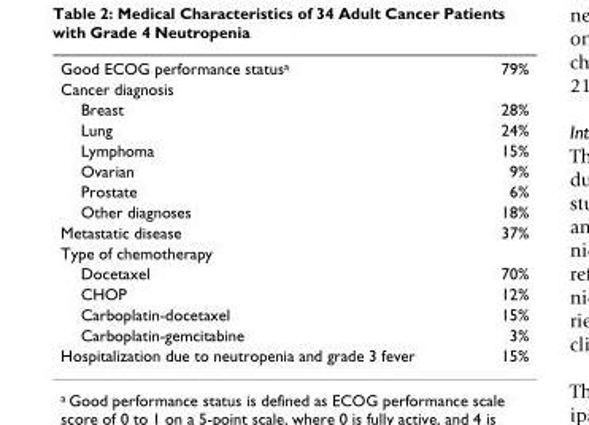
<table><tbody><tr><td>Good ECOG performance status<sup>a</sup></td><td>79%</td></tr><tr><td colspan="2">Cancer diagnosis</td></tr><tr><td>Breast</td><td>28%</td></tr><tr><td>Lung</td><td>24%</td></tr><tr><td>Lymphoma</td><td>15%</td></tr><tr><td>Ovarian</td><td>9%</td></tr><tr><td>Prostate</td><td>6%</td></tr><tr><td>Other diagnoses</td><td>18%</td></tr><tr><td>Metastatic disease</td><td>37%</td></tr><tr><td colspan="2">Type of chemotherapy</td></tr><tr><td>Docetaxel</td><td>70%</td></tr><tr><td>CHOP</td><td>12%</td></tr><tr><td>Carboplatin-docetaxel</td><td>15%</td></tr><tr><td>Carboplatin-gemcitabine</td><td>3%</td></tr><tr><td>Hospitalization due to neutropenia and grade 3 fever</td><td>15%</td></tr></tbody></table>